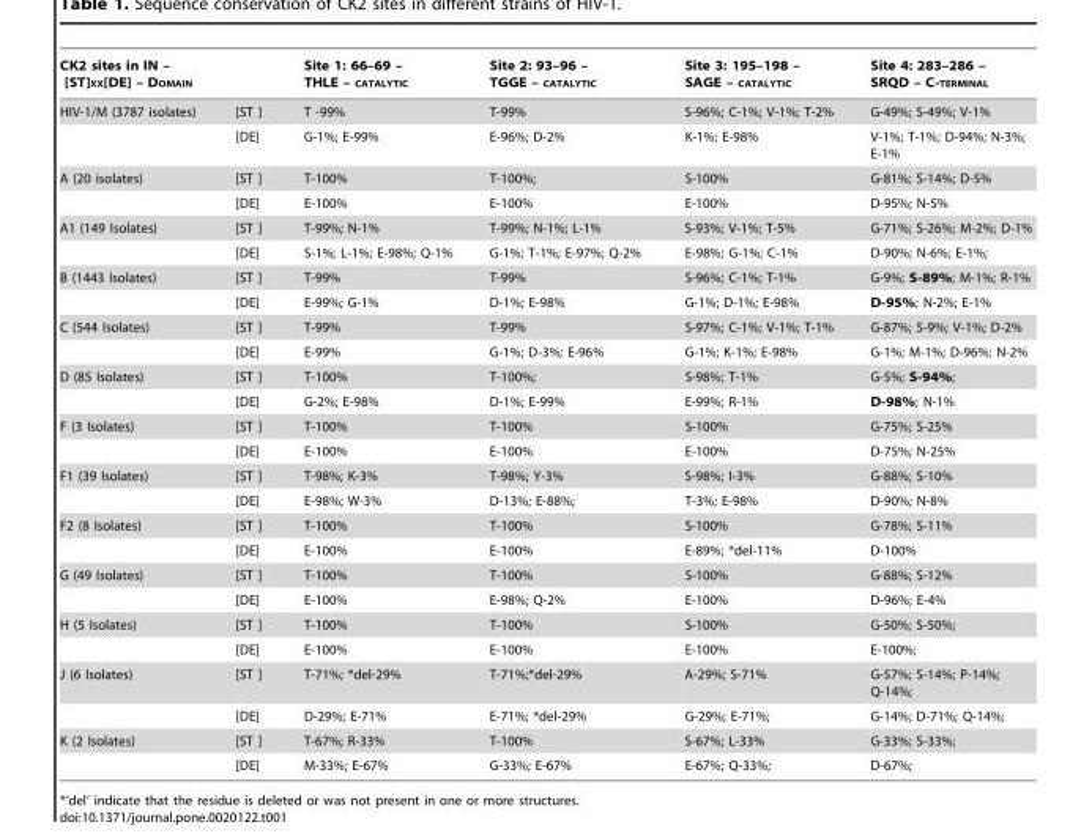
<table><thead><tr><td>CK2 sites in IN – [ST]XX[DE] – DOMAIN</td><td></td><td>Site 1: 66–69 – THLE – CATALYTIC</td><td>Site 2: 93–96 – TGGE – CATALYTIC</td><td>Site 3: 195–198 – SAGE – CATALYTIC</td><td>Site 4: 283–286 – SRQD – C-TERMINAL</td></tr></thead><tbody><tr><td rowspan="2">HIV-1/M (3787 isolates)</td><td>[ST ]</td><td>T -99%</td><td>T-99%</td><td>S-96%; C-1%; V-1%; T-2%</td><td>G-49%; S-49%; V-1%</td></tr><tr><td>[DE]</td><td>G-1%; E-99%</td><td>E-96%; D-2%</td><td>K-1%; E-98%</td><td>V-1%; T-1%; D-94%; N-3%; E-1%</td></tr><tr><td rowspan="2">A (20 isolates)</td><td>[ST ]</td><td>T-100%</td><td>T-100%;</td><td>S-100%</td><td>G-81%; S-14%; D-5%</td></tr><tr><td>[DE]</td><td>E-100%</td><td>E-100%</td><td>E-100%</td><td>D-95%; N-5%</td></tr><tr><td rowspan="2">A1 (149 Isolates)</td><td>[ST ]</td><td>T-99%; N-1%</td><td>T-99%; N-1%; L-1%</td><td>S-93%; V-1%; T-5%</td><td>G-71%; S-26%; M-2%; D-1%</td></tr><tr><td>[DE]</td><td>S-1%; L-1%; E-98%; Q-1%</td><td>G-1%; T-1%; E-97%; Q-2%</td><td>E-98%; G-1%; C-1%</td><td>D-90%; N-6%; E-1%;</td></tr><tr><td rowspan="2">B (1443 Isolates)</td><td>[ST ]</td><td>T-99%</td><td>T-99%</td><td>S-96%; C-1%; T-1%</td><td>G-9%; S-89%; M-1%; R-1%</td></tr><tr><td>[DE]</td><td>E-99%; G-1%</td><td>D-1%; E-98%</td><td>G-1%; D-1%; E-98%</td><td>D-95%; N-2%; E-1%</td></tr><tr><td rowspan="2">C (544 Isolates)</td><td>[ST ]</td><td>T-99%</td><td>T-99%</td><td>S-97%; C-1%; V-1%; T-1%</td><td>G-87%; S-9%; V-1%; D-2%</td></tr><tr><td>[DE]</td><td>E-99%</td><td>G-1%; D-3%; E-96%</td><td>G-1%; K-1%; E-98%</td><td>G-1%; M-1%; D-96%; N-2%</td></tr><tr><td rowspan="2">D (85 Isolates)</td><td>[ST ]</td><td>T-100%</td><td>T-100%;</td><td>S-98%; T-1%</td><td>G-5%; S-94%;</td></tr><tr><td>[DE]</td><td>G-2%; E-98%</td><td>D-1%; E-99%</td><td>E-99%; R-1%</td><td>D-98%; N-1%</td></tr><tr><td rowspan="2">F (3 Isolates)</td><td>[ST ]</td><td>T-100%</td><td>T-100%</td><td>S-100%</td><td>G-75%; S-25%</td></tr><tr><td>[DE]</td><td>E-100%</td><td>E-100%</td><td>E-100%</td><td>D-75%; N-25%</td></tr><tr><td rowspan="2">F1 (39 Isolates)</td><td>[ST ]</td><td>T-98%; K-3%</td><td>T-98%; Y-3%</td><td>S-98%; I-3%</td><td>G-88%; S-10%</td></tr><tr><td>[DE]</td><td>E-98%; W-3%</td><td>D-13%; E-88%;</td><td>T-3%; E-98%</td><td>D-90%; N-8%</td></tr><tr><td rowspan="2">F2 (8 Isolates)</td><td>[ST ]</td><td>T-100%</td><td>T-100%</td><td>S-100%</td><td>G-78%; S-11%</td></tr><tr><td>[DE]</td><td>E-100%</td><td>E-100%</td><td>E-89%; *del-11%</td><td>D-100%</td></tr><tr><td rowspan="2">G (49 Isolates)</td><td>[ST ]</td><td>T-100%</td><td>T-100%</td><td>S-100%</td><td>G-88%; S-12%</td></tr><tr><td>[DE]</td><td>E-100%</td><td>E-98%; Q-2%</td><td>E-100%</td><td>D-96%; E-4%</td></tr><tr><td rowspan="2">H (5 Isolates)</td><td>[ST ]</td><td>T-100%</td><td>T-100%</td><td>S-100%</td><td>G-50%; S-50%;</td></tr><tr><td>[DE]</td><td>E-100%</td><td>E-100%</td><td>E-100%</td><td>E-100%;</td></tr><tr><td rowspan="2">J (6 Isolates)</td><td>[ST ]</td><td>T-71%; *del-29%</td><td>T-71%;*del-29%</td><td>A-29%; S-71%</td><td>G-57%; S-14%; P-14%; Q-14%;</td></tr><tr><td>[DE]</td><td>D-29%; E-71%</td><td>E-71%; *del-29%</td><td>G-29%; E-71%;</td><td>G-14%; D-71%; Q-14%;</td></tr><tr><td rowspan="2">K (2 Isolates)</td><td>[ST ]</td><td>T-67%; R-33%</td><td>T-100%</td><td>S-67%; L-33%</td><td>G-33%; S-33%;</td></tr><tr><td>[DE]</td><td>M-33%; E-67%</td><td>G-33%; E-67%</td><td>E-67%; Q-33%;</td><td>D-67%;</td></tr></tbody></table>